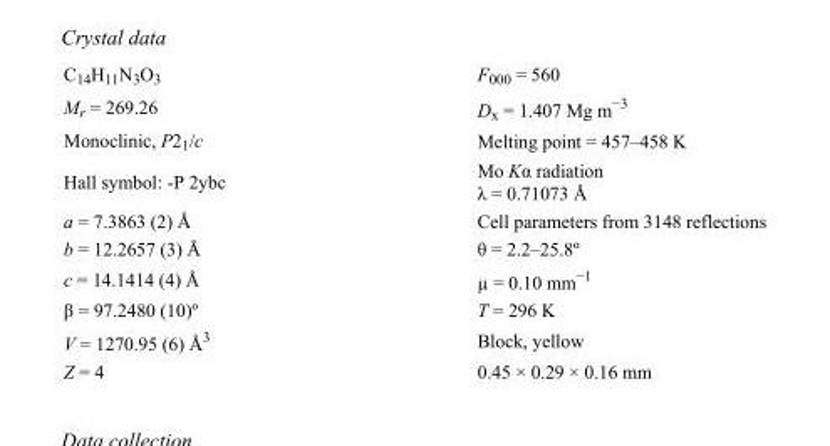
<table><tbody><tr><td>C<sub>14</sub>H<sub>11</sub>N<sub>3</sub>O<sub>3</sub></td><td>F000 = 560</td></tr><tr><td>M<sub>r</sub> = 269.26</td><td>D<sub>x</sub> = 1.407 Mg m<sup>−3</sup></td></tr><tr><td>Monoclinic, P2<sub>1</sub>/c</td><td>Melting point = 457–458 K</td></tr><tr><td>Hall symbol: -P 2ybc</td><td>Mo Kα radiation λ = 0.71073 Å</td></tr><tr><td>a = 7.3863 (2) Å</td><td>Cell parameters from 3148 reflections</td></tr><tr><td>b = 12.2657 (3) Å</td><td>θ = 2.2–25.8º</td></tr><tr><td>c = 14.1414 (4) Å</td><td>µ = 0.10 mm<sup>−1</sup></td></tr><tr><td>β = 97.2480 (10)º</td><td>T = 296 K</td></tr><tr><td>V = 1270.95 (6) Å<sup>3</sup></td><td>Block, yellow</td></tr><tr><td>Z = 4</td><td>0.45 × 0.29 × 0.16 mm</td></tr></tbody></table>